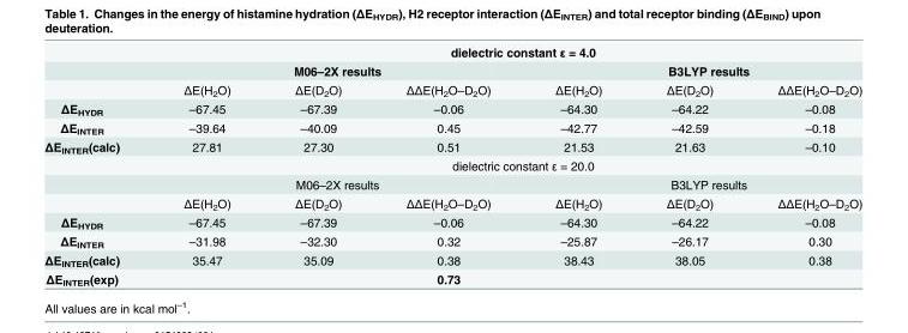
<table><thead><tr><td rowspan="3"></td><td colspan="6">dielectric constant ε = 4.0</td></tr><tr><td colspan="3">M06–2X results</td><td colspan="3">B3LYP results</td></tr><tr><td>ΔE(H<sub>2</sub>O)</td><td>ΔE(D<sub>2</sub>O)</td><td>ΔΔE(H<sub>2</sub>O–D<sub>2</sub>O)</td><td>ΔE(H<sub>2</sub>O)</td><td>ΔE(D<sub>2</sub>O)</td><td>ΔΔE(H<sub>2</sub>O–D<sub>2</sub>O)</td></tr></thead><tbody><tr><td>ΔE<sub>HYDR</sub></td><td>–67.45</td><td>–67.39</td><td>–0.06</td><td>–64.30</td><td>–64.22</td><td>–0.08</td></tr><tr><td>ΔE<sub>INTER</sub></td><td>–39.64</td><td>–40.09</td><td>0.45</td><td>–42.77</td><td>–42.59</td><td>–0.18</td></tr><tr><td rowspan="4">ΔE<sub>INTER</sub>(calc)</td><td>27.81</td><td>27.30</td><td>0.51</td><td>21.53</td><td>21.63</td><td>–0.10</td></tr><tr><td colspan="6">dielectric constant ε = 20.0</td></tr><tr><td colspan="3">M06–2X results</td><td colspan="3">B3LYP results</td></tr><tr><td>ΔE(H<sub>2</sub>O)</td><td>ΔE(D<sub>2</sub>O)</td><td>ΔΔE(H<sub>2</sub>O–D<sub>2</sub>O)</td><td>ΔE(H<sub>2</sub>O)</td><td>ΔE(D<sub>2</sub>O)</td><td>ΔΔE(H<sub>2</sub>O–D<sub>2</sub>O)</td></tr><tr><td>ΔE<sub>HYDR</sub></td><td>–67.45</td><td>–67.39</td><td>–0.06</td><td>–64.30</td><td>–64.22</td><td>–0.08</td></tr><tr><td>ΔE<sub>INTER</sub></td><td>–31.98</td><td>–32.30</td><td>0.32</td><td>–25.87</td><td>–26.17</td><td>0.30</td></tr><tr><td>ΔE<sub>INTER</sub>(calc)</td><td>35.47</td><td>35.09</td><td>0.38</td><td>38.43</td><td>38.05</td><td>0.38</td></tr><tr><td>ΔE<sub>INTER</sub>(exp)</td><td></td><td></td><td>0.73</td><td></td><td></td><td></td></tr></tbody></table>